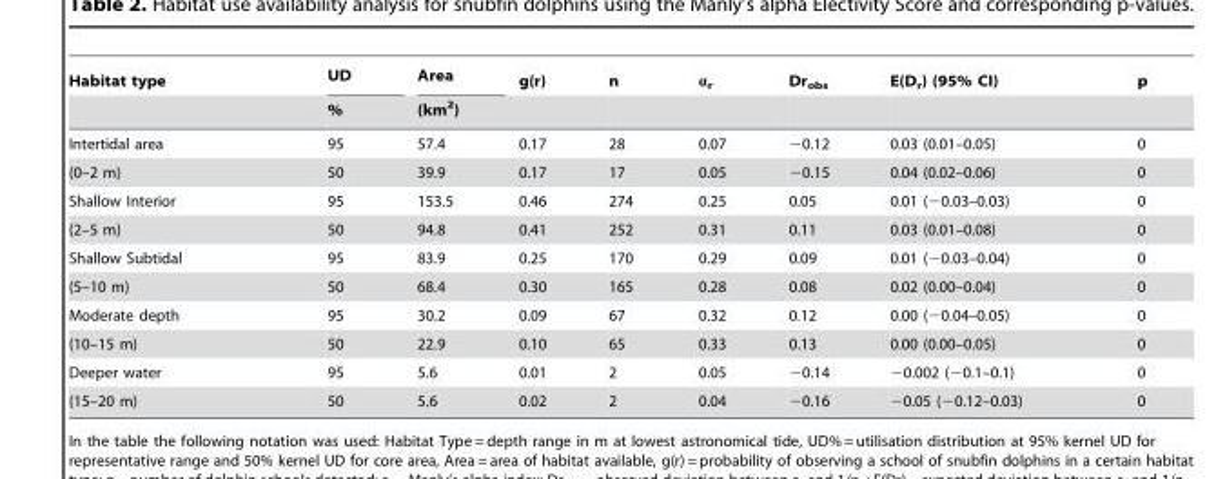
<table><thead><tr><td rowspan="2">Habitat type</td><td rowspan="2">UD %</td><td rowspan="2">Area (km<sup>2</sup>)</td><td rowspan="2">g(r)</td><td rowspan="2">n</td><td rowspan="2">α<sub>r</sub></td><td rowspan="2">Dr<sub>obs</sub></td><td rowspan="2">E(D<sub>r</sub>) (95% CI)</td><td rowspan="2">p</td></tr><tr></tr></thead><tbody><tr><td>Intertidal area</td><td>95</td><td>57.4</td><td>0.17</td><td>28</td><td>0.07</td><td>−0.12</td><td>0.03 (0.01–0.05)</td><td>0</td></tr><tr><td>(0–2 m)</td><td>50</td><td>39.9</td><td>0.17</td><td>17</td><td>0.05</td><td>−0.15</td><td>0.04 (0.02–0.06)</td><td>0</td></tr><tr><td>Shallow Interior</td><td>95</td><td>153.5</td><td>0.46</td><td>274</td><td>0.25</td><td>0.05</td><td>0.01 (−0.03–0.03)</td><td>0</td></tr><tr><td>(2–5 m)</td><td>50</td><td>94.8</td><td>0.41</td><td>252</td><td>0.31</td><td>0.11</td><td>0.03 (0.01–0.08)</td><td>0</td></tr><tr><td>Shallow Subtidal</td><td>95</td><td>83.9</td><td>0.25</td><td>170</td><td>0.29</td><td>0.09</td><td>0.01 (−0.03–0.04)</td><td>0</td></tr><tr><td>(5–10 m)</td><td>50</td><td>68.4</td><td>0.30</td><td>165</td><td>0.28</td><td>0.08</td><td>0.02 (0.00–0.04)</td><td>0</td></tr><tr><td>Moderate depth</td><td>95</td><td>30.2</td><td>0.09</td><td>67</td><td>0.32</td><td>0.12</td><td>0.00 (−0.04–0.05)</td><td>0</td></tr><tr><td>(10–15 m)</td><td>50</td><td>22.9</td><td>0.10</td><td>65</td><td>0.33</td><td>0.13</td><td>0.00 (0.00–0.05)</td><td>0</td></tr><tr><td>Deeper water</td><td>95</td><td>5.6</td><td>0.01</td><td>2</td><td>0.05</td><td>−0.14</td><td>−0.002 (−0.1–0.1)</td><td>0</td></tr><tr><td>(15–20 m)</td><td>50</td><td>5.6</td><td>0.02</td><td>2</td><td>0.04</td><td>−0.16</td><td>−0.05 (−0.12–0.03)</td><td>0</td></tr></tbody></table>